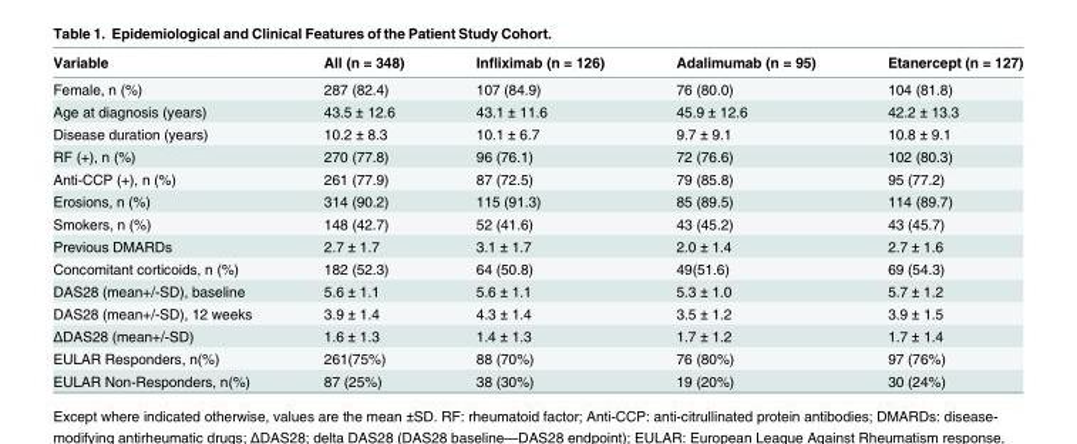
<table><thead><tr><td>Variable</td><td>All (n = 348)</td><td>Infliximab (n = 126)</td><td>Adalimumab (n = 95)</td><td>Etanercept (n = 127)</td></tr></thead><tbody><tr><td>Female, n (%)</td><td>287 (82.4)</td><td>107 (84.9)</td><td>76 (80.0)</td><td>104 (81.8)</td></tr><tr><td>Age at diagnosis (years)</td><td>43.5 ± 12.6</td><td>43.1 ± 11.6</td><td>45.9 ± 12.6</td><td>42.2 ± 13.3</td></tr><tr><td>Disease duration (years)</td><td>10.2 ± 8.3</td><td>10.1 ± 6.7</td><td>9.7 ± 9.1</td><td>10.8 ± 9.1</td></tr><tr><td>RF (+), n (%)</td><td>270 (77.8)</td><td>96 (76.1)</td><td>72 (76.6)</td><td>102 (80.3)</td></tr><tr><td>Anti-CCP (+), n (%)</td><td>261 (77.9)</td><td>87 (72.5)</td><td>79 (85.8)</td><td>95 (77.2)</td></tr><tr><td>Erosions, n (%)</td><td>314 (90.2)</td><td>115 (91.3)</td><td>85 (89.5)</td><td>114 (89.7)</td></tr><tr><td>Smokers, n (%)</td><td>148 (42.7)</td><td>52 (41.6)</td><td>43 (45.2)</td><td>43 (45.7)</td></tr><tr><td>Previous DMARDs</td><td>2.7 ± 1.7</td><td>3.1 ± 1.7</td><td>2.0 ± 1.4</td><td>2.7 ± 1.6</td></tr><tr><td>Concomitant corticoids, n (%)</td><td>182 (52.3)</td><td>64 (50.8)</td><td>49(51.6)</td><td>69 (54.3)</td></tr><tr><td>DAS28 (mean+/-SD), baseline</td><td>5.6 ± 1.1</td><td>5.6 ± 1.1</td><td>5.3 ± 1.0</td><td>5.7 ± 1.2</td></tr><tr><td>DAS28 (mean+/-SD), 12 weeks</td><td>3.9 ± 1.4</td><td>4.3 ± 1.4</td><td>3.5 ± 1.2</td><td>3.9 ± 1.5</td></tr><tr><td>ΔDAS28 (mean+/-SD)</td><td>1.6 ± 1.3</td><td>1.4 ± 1.3</td><td>1.7 ± 1.2</td><td>1.7 ± 1.4</td></tr><tr><td>EULAR Responders, n(%)</td><td>261(75%)</td><td>88 (70%)</td><td>76 (80%)</td><td>97 (76%)</td></tr><tr><td>EULAR Non-Responders, n(%)</td><td>87 (25%)</td><td>38 (30%)</td><td>19 (20%)</td><td>30 (24%)</td></tr></tbody></table>